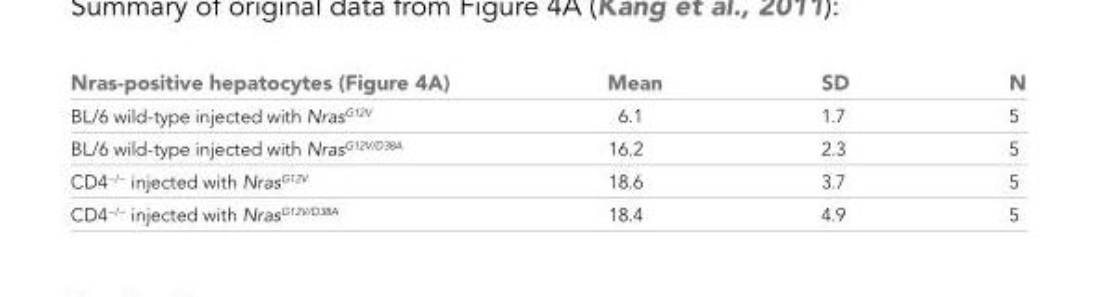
<table><thead><tr><td>Nras-positive hepatocytes (Figure 4A)</td><td>Mean</td><td>SD</td><td>N</td></tr></thead><tbody><tr><td>BL/6 wild-type injected with Nras<sup>G12V</sup></td><td>6.1</td><td>1.7</td><td>5</td></tr><tr><td>BL/6 wild-type injected with Nras<sup>G12V/D38A</sup></td><td>16.2</td><td>2.3</td><td>5</td></tr><tr><td>CD4<sup>−/−</sup> injected with Nras<sup>G12V</sup></td><td>18.6</td><td>3.7</td><td>5</td></tr><tr><td>CD4<sup>−/−</sup> injected with Nras<sup>G12V/D38A</sup></td><td>18.4</td><td>4.9</td><td>5</td></tr></tbody></table>